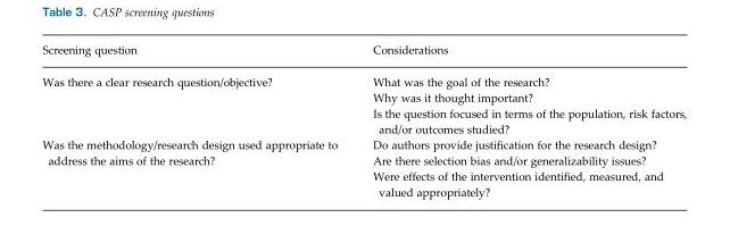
<table><thead><tr><td>Screening question</td><td>Considerations</td></tr></thead><tbody><tr><td>Was there a clear research question/objective?</td><td>What was the goal of the research? Why was it thought important? Is the question focused in terms of the population, risk factors, and/or outcomes studied?</td></tr><tr><td>Was the methodology/research design used appropriate to address the aims of the research?</td><td>Do authors provide justification for the research design? Are there selection bias and/or generalizability issues? Were effects of the intervention identified, measured, and valued appropriately?</td></tr></tbody></table>